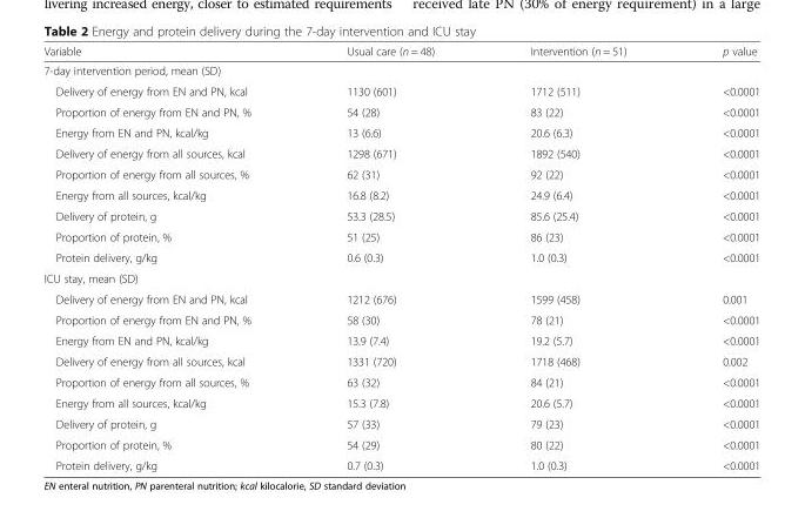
<table><thead><tr><td>Variable</td><td>Usual care (n = 48)</td><td>Intervention (n = 51)</td><td>p value</td></tr></thead><tbody><tr><td colspan="4">7-day intervention period, mean (SD)</td></tr><tr><td>Delivery of energy from EN and PN, kcal</td><td>1130 (601)</td><td>1712 (511)</td><td>&lt;0.0001</td></tr><tr><td>Proportion of energy from EN and PN, %</td><td>54 (28)</td><td>83 (22)</td><td>&lt;0.0001</td></tr><tr><td>Energy from EN and PN, kcal/kg</td><td>13 (6.6)</td><td>20.6 (6.3)</td><td>&lt;0.0001</td></tr><tr><td>Delivery of energy from all sources, kcal</td><td>1298 (671)</td><td>1892 (540)</td><td>&lt;0.0001</td></tr><tr><td>Proportion of energy from all sources, %</td><td>62 (31)</td><td>92 (22)</td><td>&lt;0.0001</td></tr><tr><td>Energy from all sources, kcal/kg</td><td>16.8 (8.2)</td><td>24.9 (6.4)</td><td>&lt;0.0001</td></tr><tr><td>Delivery of protein, g</td><td>53.3 (28.5)</td><td>85.6 (25.4)</td><td>&lt;0.0001</td></tr><tr><td>Proportion of protein, %</td><td>51 (25)</td><td>86 (23)</td><td>&lt;0.0001</td></tr><tr><td>Protein delivery, g/kg</td><td>0.6 (0.3)</td><td>1.0 (0.3)</td><td>&lt;0.0001</td></tr><tr><td colspan="4">ICU stay, mean (SD)</td></tr><tr><td>Delivery of energy from EN and PN, kcal</td><td>1212 (676)</td><td>1599 (458)</td><td>0.001</td></tr><tr><td>Proportion of energy from EN and PN, %</td><td>58 (30)</td><td>78 (21)</td><td>&lt;0.0001</td></tr><tr><td>Energy from EN and PN, kcal/kg</td><td>13.9 (7.4)</td><td>19.2 (5.7)</td><td>&lt;0.0001</td></tr><tr><td>Delivery of energy from all sources, kcal</td><td>1331 (720)</td><td>1718 (468)</td><td>0.002</td></tr><tr><td>Proportion of energy from all sources, %</td><td>63 (32)</td><td>84 (21)</td><td>&lt;0.0001</td></tr><tr><td>Energy from all sources, kcal/kg</td><td>15.3 (7.8)</td><td>20.6 (5.7)</td><td>&lt;0.0001</td></tr><tr><td>Delivery of protein, g</td><td>57 (33)</td><td>79 (23)</td><td>&lt;0.0001</td></tr><tr><td>Proportion of protein, %</td><td>54 (29)</td><td>80 (22)</td><td>&lt;0.0001</td></tr><tr><td>Protein delivery, g/kg</td><td>0.7 (0.3)</td><td>1.0 (0.3)</td><td>&lt;0.0001</td></tr></tbody></table>